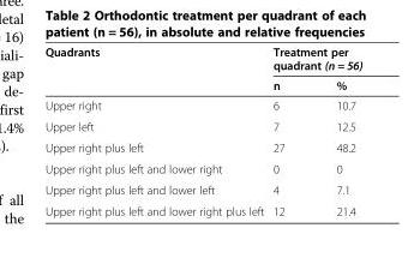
<table><thead><tr><td rowspan="2">Quadrants</td><td colspan="2">Treatment per quadrant (n = 56)</td></tr><tr><td>n</td><td>%</td></tr></thead><tbody><tr><td>Upper right</td><td>6</td><td>10.7</td></tr><tr><td>Upper left</td><td>7</td><td>12.5</td></tr><tr><td>Upper right plus left</td><td>27</td><td>48.2</td></tr><tr><td>Upper right plus left and lower right</td><td>0</td><td>0</td></tr><tr><td>Upper right plus left and lower left</td><td>4</td><td>7.1</td></tr><tr><td>Upper right plus left and lower right plus left</td><td>12</td><td>21.4</td></tr></tbody></table>